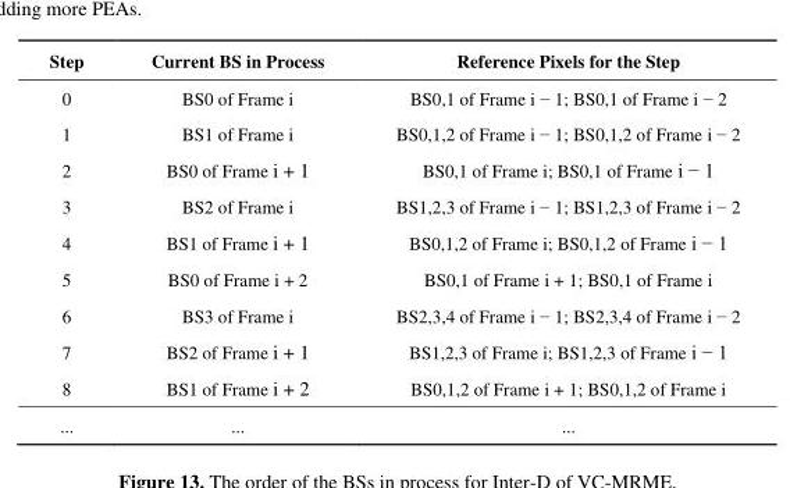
<table><thead><tr><td>Step</td><td>Current BS in Process</td><td>Reference Pixels for the Step</td></tr></thead><tbody><tr><td>0</td><td>BS0 of Frame i</td><td>BS0,1 of Frame i − 1; BS0,1 of Frame i − 2</td></tr><tr><td>1</td><td>BS1 of Frame i</td><td>BS0,1,2 of Frame i − 1; BS0,1,2 of Frame i − 2</td></tr><tr><td>2</td><td>BS0 of Frame i + 1</td><td>BS0,1 of Frame i; BS0,1 of Frame i − 1</td></tr><tr><td>3</td><td>BS2 of Frame i</td><td>BS1,2,3 of Frame i − 1; BS1,2,3 of Frame i − 2</td></tr><tr><td>4</td><td>BS1 of Frame i + 1</td><td>BS0,1,2 of Frame i; BS0,1,2 of Frame i − 1</td></tr><tr><td>5</td><td>BS0 of Frame i + 2</td><td>BS0,1 of Frame i + 1; BS0,1 of Frame i</td></tr><tr><td>6</td><td>BS3 of Frame i</td><td>BS2,3,4 of Frame i − 1; BS2,3,4 of Frame i − 2</td></tr><tr><td>7</td><td>BS2 of Frame i + 1</td><td>BS1,2,3 of Frame i; BS1,2,3 of Frame i − 1</td></tr><tr><td>8</td><td>BS1 of Frame i + 2</td><td>BS0,1,2 of Frame i + 1; BS0,1,2 of Frame i</td></tr><tr><td>...</td><td>...</td><td>...</td></tr></tbody></table>